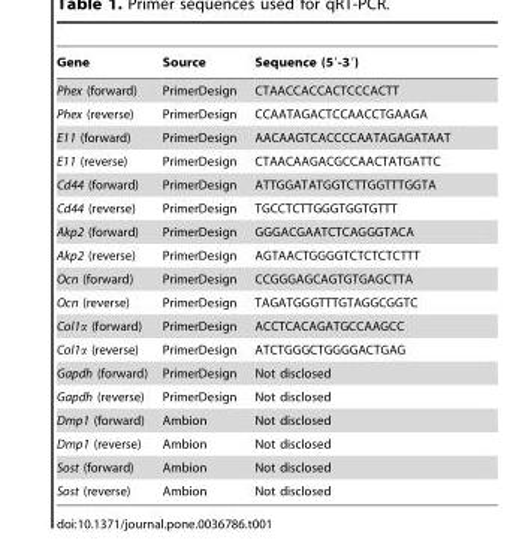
<table><thead><tr><td>Gene</td><td>Source</td><td>Sequence (5′-3′)</td></tr></thead><tbody><tr><td>Phex (forward)</td><td>PrimerDesign</td><td>CTAACCACCACTCCCACTT</td></tr><tr><td>Phex (reverse)</td><td>PrimerDesign</td><td>CCAATAGACTCCAACCTGAAGA</td></tr><tr><td>E11 (forward)</td><td>PrimerDesign</td><td>AACAAGTCACCCCAATAGAGATAAT</td></tr><tr><td>E11 (reverse)</td><td>PrimerDesign</td><td>CTAACAAGACGCCAACTATGATTC</td></tr><tr><td>Cd44 (forward)</td><td>PrimerDesign</td><td>ATTGGATATGGTCTTGGTTTGGTA</td></tr><tr><td>Cd44 (reverse)</td><td>PrimerDesign</td><td>TGCCTCTTGGGTGGTGTTT</td></tr><tr><td>Akp2 (forward)</td><td>PrimerDesign</td><td>GGGACGAATCTCAGGGTACA</td></tr><tr><td>Akp2 (reverse)</td><td>PrimerDesign</td><td>AGTAACTGGGGTCTCTCTCTTT</td></tr><tr><td>Ocn (forward)</td><td>PrimerDesign</td><td>CCGGGAGCAGTGTGAGCTTA</td></tr><tr><td>Ocn (reverse)</td><td>PrimerDesign</td><td>TAGATGGGTTTGTAGGCGGTC</td></tr><tr><td>Col1α (forward)</td><td>PrimerDesign</td><td>ACCTCACAGATGCCAAGCC</td></tr><tr><td>Col1α (reverse)</td><td>PrimerDesign</td><td>ATCTGGGCTGGGGACTGAG</td></tr><tr><td>Gapdh (forward)</td><td>PrimerDesign</td><td>Not disclosed</td></tr><tr><td>Gapdh (reverse)</td><td>PrimerDesign</td><td>Not disclosed</td></tr><tr><td>Dmp1 (forward)</td><td>Ambion</td><td>Not disclosed</td></tr><tr><td>Dmp1 (reverse)</td><td>Ambion</td><td>Not disclosed</td></tr><tr><td>Sost (forward)</td><td>Ambion</td><td>Not disclosed</td></tr><tr><td>Sost (reverse)</td><td>Ambion</td><td>Not disclosed</td></tr></tbody></table>